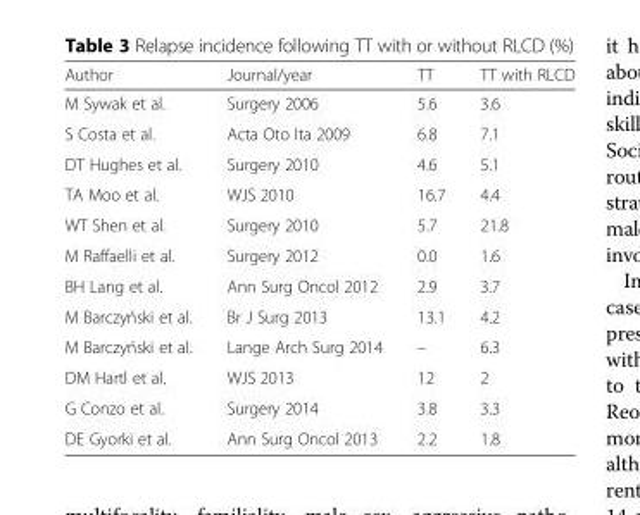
<table><thead><tr><td>Author</td><td>Journal/year</td><td>TT</td><td>TT with RLCD</td></tr></thead><tbody><tr><td>M Sywak et al.</td><td>Surgery 2006</td><td>5.6</td><td>3.6</td></tr><tr><td>S Costa et al.</td><td>Acta Oto Ita 2009</td><td>6.8</td><td>7.1</td></tr><tr><td>DT Hughes et al.</td><td>Surgery 2010</td><td>4.6</td><td>5.1</td></tr><tr><td>TA Moo et al.</td><td>WJS 2010</td><td>16.7</td><td>4.4</td></tr><tr><td>WT Shen et al.</td><td>Surgery 2010</td><td>5.7</td><td>21.8</td></tr><tr><td>M Raffaelli et al.</td><td>Surgery 2012</td><td>0.0</td><td>1.6</td></tr><tr><td>BH Lang et al.</td><td>Ann Surg Oncol 2012</td><td>2.9</td><td>3.7</td></tr><tr><td>M Barczyński et al.</td><td>Br J Surg 2013</td><td>13.1</td><td>4.2</td></tr><tr><td>M Barczyński et al.</td><td>Lange Arch Surg 2014</td><td>–</td><td>6.3</td></tr><tr><td>DM Hartl et al.</td><td>WJS 2013</td><td>12</td><td>2</td></tr><tr><td>G Conzo et al.</td><td>Surgery 2014</td><td>3.8</td><td>3.3</td></tr><tr><td>DE Gyorki et al.</td><td>Ann Surg Oncol 2013</td><td>2.2</td><td>1.8</td></tr></tbody></table>